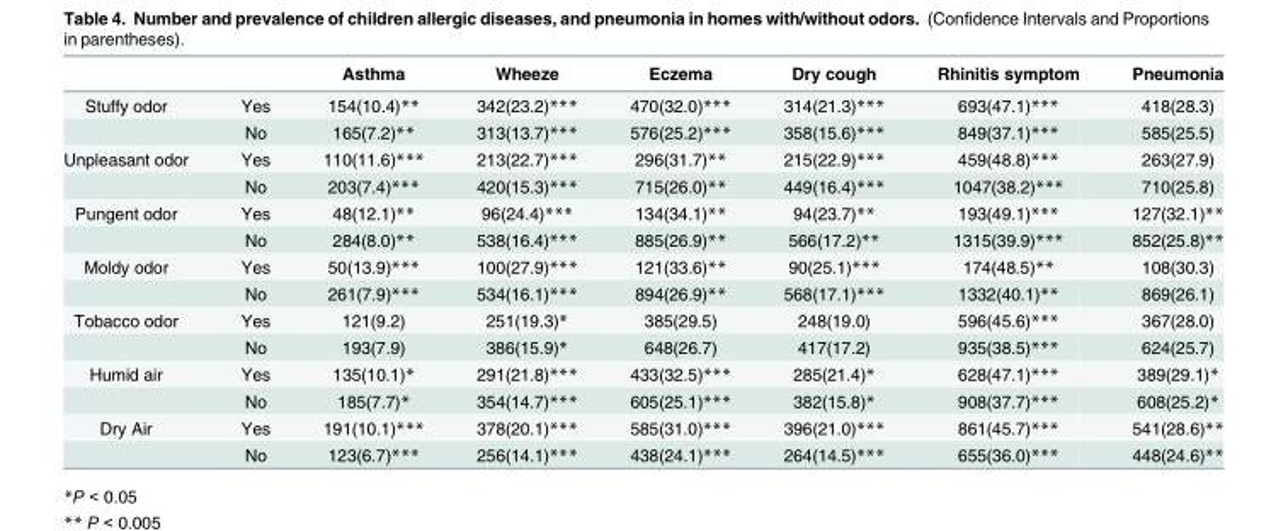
<table><thead><tr><td></td><td></td><td>Asthma</td><td>Wheeze</td><td>Eczema</td><td>Dry cough</td><td>Rhinitis symptom</td><td>Pneumonia</td></tr></thead><tbody><tr><td rowspan="2">Stuffy odor</td><td>Yes</td><td>154(10.4)**</td><td>342(23.2)***</td><td>470(32.0)***</td><td>314(21.3)***</td><td>693(47.1)***</td><td>418(28.3)</td></tr><tr><td>No</td><td>165(7.2)**</td><td>313(13.7)***</td><td>576(25.2)***</td><td>358(15.6)***</td><td>849(37.1)***</td><td>585(25.5)</td></tr><tr><td rowspan="2">Unpleasant odor</td><td>Yes</td><td>110(11.6)***</td><td>213(22.7)***</td><td>296(31.7)**</td><td>215(22.9)***</td><td>459(48.8)***</td><td>263(27.9)</td></tr><tr><td>No</td><td>203(7.4)***</td><td>420(15.3)***</td><td>715(26.0)**</td><td>449(16.4)***</td><td>1047(38.2)***</td><td>710(25.8)</td></tr><tr><td rowspan="2">Pungent odor</td><td>Yes</td><td>48(12.1)**</td><td>96(24.4)***</td><td>134(34.1)**</td><td>94(23.7)**</td><td>193(49.1)***</td><td>127(32.1)**</td></tr><tr><td>No</td><td>284(8.0)**</td><td>538(16.4)***</td><td>885(26.9)**</td><td>566(17.2)**</td><td>1315(39.9)***</td><td>852(25.8)**</td></tr><tr><td rowspan="2">Moldy odor</td><td>Yes</td><td>50(13.9)***</td><td>100(27.9)***</td><td>121(33.6)**</td><td>90(25.1)***</td><td>174(48.5)**</td><td>108(30.3)</td></tr><tr><td>No</td><td>261(7.9)***</td><td>534(16.1)***</td><td>894(26.9)**</td><td>568(17.1)***</td><td>1332(40.1)**</td><td>869(26.1)</td></tr><tr><td rowspan="2">Tobacco odor</td><td>Yes</td><td>121(9.2)</td><td>251(19.3)*</td><td>385(29.5)</td><td>248(19.0)</td><td>596(45.6)***</td><td>367(28.0)</td></tr><tr><td>No</td><td>193(7.9)</td><td>386(15.9)*</td><td>648(26.7)</td><td>417(17.2)</td><td>935(38.5)***</td><td>624(25.7)</td></tr><tr><td rowspan="2">Humid air</td><td>Yes</td><td>135(10.1)*</td><td>291(21.8)***</td><td>433(32.5)***</td><td>285(21.4)*</td><td>628(47.1)***</td><td>389(29.1)*</td></tr><tr><td>No</td><td>185(7.7)*</td><td>354(14.7)***</td><td>605(25.1)***</td><td>382(15.8)*</td><td>908(37.7)***</td><td>608(25.2)*</td></tr><tr><td rowspan="2">Dry Air</td><td>Yes</td><td>191(10.1)***</td><td>378(20.1)***</td><td>585(31.0)***</td><td>396(21.0)***</td><td>861(45.7)***</td><td>541(28.6)**</td></tr><tr><td>No</td><td>123(6.7)***</td><td>256(14.1)***</td><td>438(24.1)***</td><td>264(14.5)***</td><td>655(36.0)***</td><td>448(24.6)**</td></tr></tbody></table>